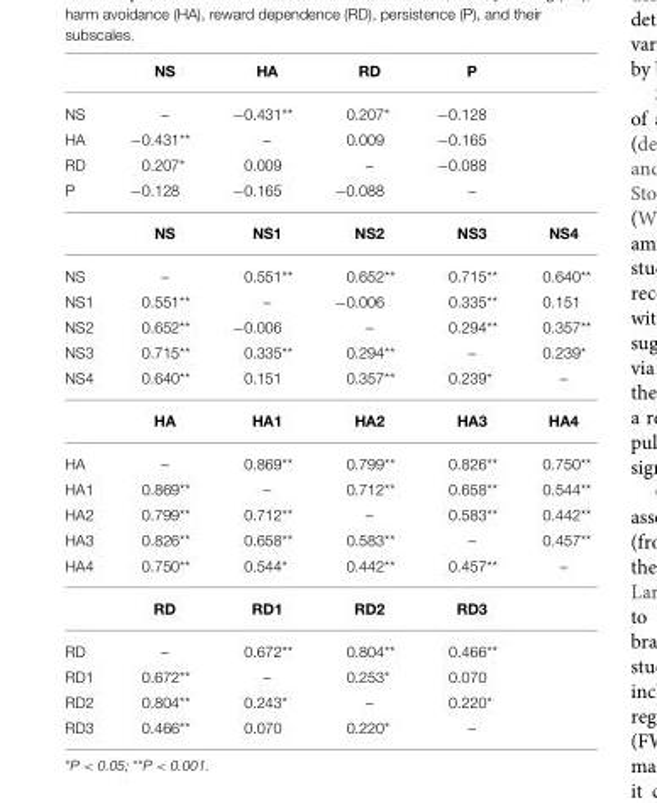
<table><thead><tr><td></td><td>NS</td><td>HA</td><td>RD</td><td>P</td><td></td></tr></thead><tbody><tr><td>NS</td><td>–</td><td>−0.431**</td><td>0.207*</td><td>−0.128</td><td></td></tr><tr><td>HA</td><td>−0.431**</td><td>–</td><td>0.009</td><td>−0.165</td><td></td></tr><tr><td>RD</td><td>0.207*</td><td>0.009</td><td>–</td><td>−0.088</td><td></td></tr><tr><td rowspan="2">P</td><td>−0.128</td><td>−0.165</td><td>−0.088</td><td>–</td><td></td></tr><tr><td>NS</td><td>NS1</td><td>NS2</td><td>NS3</td><td>NS4</td></tr><tr><td>NS</td><td>–</td><td>0.551**</td><td>0.652**</td><td>0.715**</td><td>0.640**</td></tr><tr><td>NS1</td><td>0.551**</td><td>–</td><td>−0.006</td><td>0.335**</td><td>0.151</td></tr><tr><td>NS2</td><td>0.652**</td><td>−0.006</td><td>–</td><td>0.294**</td><td>0.357**</td></tr><tr><td>NS3</td><td>0.715**</td><td>0.335**</td><td>0.294**</td><td>–</td><td>0.239*</td></tr><tr><td rowspan="2">NS4</td><td>0.640**</td><td>0.151</td><td>0.357**</td><td>0.239*</td><td>–</td></tr><tr><td>HA</td><td>HA1</td><td>HA2</td><td>HA3</td><td>HA4</td></tr><tr><td>HA</td><td>–</td><td>0.869**</td><td>0.799**</td><td>0.826**</td><td>0.750**</td></tr><tr><td>HA1</td><td>0.869**</td><td>–</td><td>0.712**</td><td>0.658**</td><td>0.544**</td></tr><tr><td>HA2</td><td>0.799**</td><td>0.712**</td><td>–</td><td>0.583**</td><td>0.442**</td></tr><tr><td>HA3</td><td>0.826**</td><td>0.658**</td><td>0.583**</td><td>–</td><td>0.457**</td></tr><tr><td rowspan="2">HA4</td><td>0.750**</td><td>0.544*</td><td>0.442**</td><td>0.457**</td><td>–</td></tr><tr><td>RD</td><td>RD1</td><td>RD2</td><td>RD3</td><td></td></tr><tr><td>RD</td><td>–</td><td>0.672**</td><td>0.804**</td><td>0.466**</td><td></td></tr><tr><td>RD1</td><td>0.672**</td><td>–</td><td>0.253*</td><td>0.070</td><td></td></tr><tr><td>RD2</td><td>0.804**</td><td>0.243*</td><td>–</td><td>0.220*</td><td></td></tr><tr><td>RD3</td><td>0.466**</td><td>0.070</td><td>0.220*</td><td>–</td><td></td></tr></tbody></table>